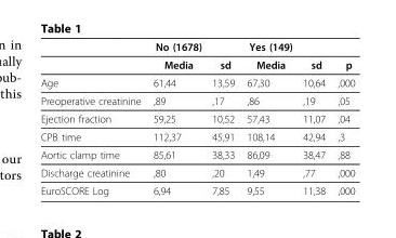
<table><thead><tr><td rowspan="2"></td><td rowspan="2">No (1678) Media</td><td rowspan="2">sd</td><td rowspan="2">Yes (149) Media</td><td rowspan="2">sd</td><td rowspan="2">p</td></tr><tr></tr></thead><tbody><tr><td>Age</td><td>61,44</td><td>13,59</td><td>67,30</td><td>10,64</td><td>,000</td></tr><tr><td>Preoperative creatinine</td><td>,89</td><td>,17</td><td>,86</td><td>,19</td><td>,05</td></tr><tr><td>Ejection fraction</td><td>59,25</td><td>10,52</td><td>57,43</td><td>11,07</td><td>,04</td></tr><tr><td>CPB time</td><td>112,37</td><td>45,91</td><td>108,14</td><td>42,94</td><td>,3</td></tr><tr><td>Aortic clamp time</td><td>85,61</td><td>38,33</td><td>86,09</td><td>38,47</td><td>,88</td></tr><tr><td>Discharge creatinine</td><td>,80</td><td>,20</td><td>1,49</td><td>,77</td><td>,000</td></tr><tr><td>EuroSCORE Log</td><td>6,94</td><td>7,85</td><td>9,55</td><td>11,38</td><td>,000</td></tr></tbody></table>